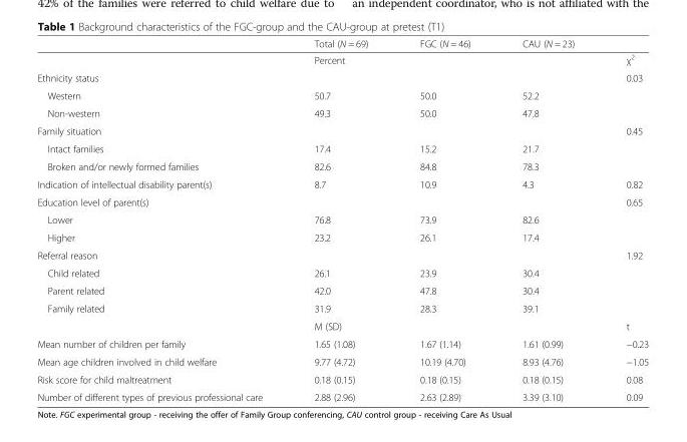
<table><thead><tr><td></td><td>Total (N = 69)</td><td>FGC (N = 46)</td><td>CAU (N = 23)</td><td></td></tr></thead><tbody><tr><td></td><td colspan="3">Percent</td><td>χ<sup>2</sup></td></tr><tr><td>Ethnicity status</td><td></td><td></td><td></td><td>0.03</td></tr><tr><td>Western</td><td>50.7</td><td>50.0</td><td>52.2</td><td></td></tr><tr><td>Non-western</td><td>49.3</td><td>50.0</td><td>47.8</td><td></td></tr><tr><td>Family situation</td><td></td><td></td><td></td><td>0.45</td></tr><tr><td>Intact families</td><td>17.4</td><td>15.2</td><td>21.7</td><td></td></tr><tr><td>Broken and/or newly formed families</td><td>82.6</td><td>84.8</td><td>78.3</td><td></td></tr><tr><td>Indication of intellectual disability parent(s)</td><td>8.7</td><td>10.9</td><td>4.3</td><td>0.82</td></tr><tr><td>Education level of parent(s)</td><td></td><td></td><td></td><td>0.65</td></tr><tr><td>Lower</td><td>76.8</td><td>73.9</td><td>82.6</td><td></td></tr><tr><td>Higher</td><td>23.2</td><td>26.1</td><td>17.4</td><td></td></tr><tr><td>Referral reason</td><td></td><td></td><td></td><td>1.92</td></tr><tr><td>Child related</td><td>26.1</td><td>23.9</td><td>30.4</td><td></td></tr><tr><td>Parent related</td><td>42.0</td><td>47.8</td><td>30.4</td><td></td></tr><tr><td rowspan="2">Family related</td><td>31.9</td><td>28.3</td><td>39.1</td><td></td></tr><tr><td colspan="3">M (SD)</td><td>t</td></tr><tr><td>Mean number of children per family</td><td>1.65 (1.08)</td><td>1.67 (1.14)</td><td>1.61 (0.99)</td><td>−0.23</td></tr><tr><td>Mean age children involved in child welfare</td><td>9.77 (4.72)</td><td>10.19 (4.70)</td><td>8.93 (4.76)</td><td>−1.05</td></tr><tr><td>Risk score for child maltreatment</td><td>0.18 (0.15)</td><td>0.18 (0.15)</td><td>0.18 (0.15)</td><td>0.08</td></tr><tr><td>Number of different types of previous professional care</td><td>2.88 (2.96)</td><td>2.63 (2.89)</td><td>3.39 (3.10)</td><td>0.09</td></tr></tbody></table>